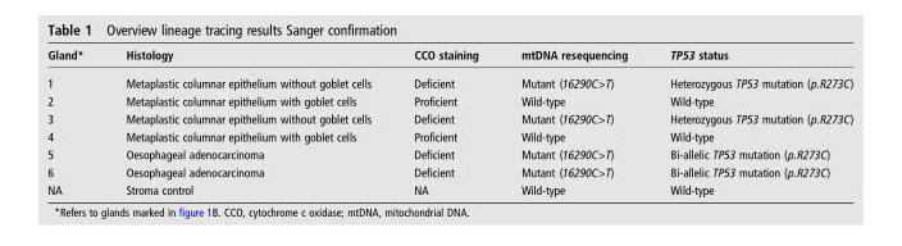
<table><thead><tr><td>Gland*</td><td>Histology</td><td>CCO staining</td><td>mtDNA resequencing</td><td>TP53 status</td></tr></thead><tbody><tr><td>1</td><td>Metaplastic columnar epithelium without goblet cells</td><td>Deficient</td><td>Mutant (16290C&gt;T)</td><td>Heterozygous TP53 mutation (p.R273C)</td></tr><tr><td>2</td><td>Metaplastic columnar epithelium with goblet cells</td><td>Proficient</td><td>Wild-type</td><td>Wild-type</td></tr><tr><td>3</td><td>Metaplastic columnar epithelium without goblet cells</td><td>Deficient</td><td>Mutant (16290C&gt;T)</td><td>Heterozygous TP53 mutation (p.R273C)</td></tr><tr><td>4</td><td>Metaplastic columnar epithelium with goblet cells</td><td>Proficient</td><td>Wild-type</td><td>Wild-type</td></tr><tr><td>5</td><td>Oesophageal adenocarcinoma</td><td>Deficient</td><td>Mutant (16290C&gt;T)</td><td>Bi-allelic TP53 mutation (p.R273C)</td></tr><tr><td>6</td><td>Oesophageal adenocarcinoma</td><td>Deficient</td><td>Mutant (16290C&gt;T)</td><td>Bi-allelic TP53 mutation (p.R273C)</td></tr><tr><td>NA</td><td>Stroma control</td><td>NA</td><td>Wild-type</td><td>Wild-type</td></tr></tbody></table>